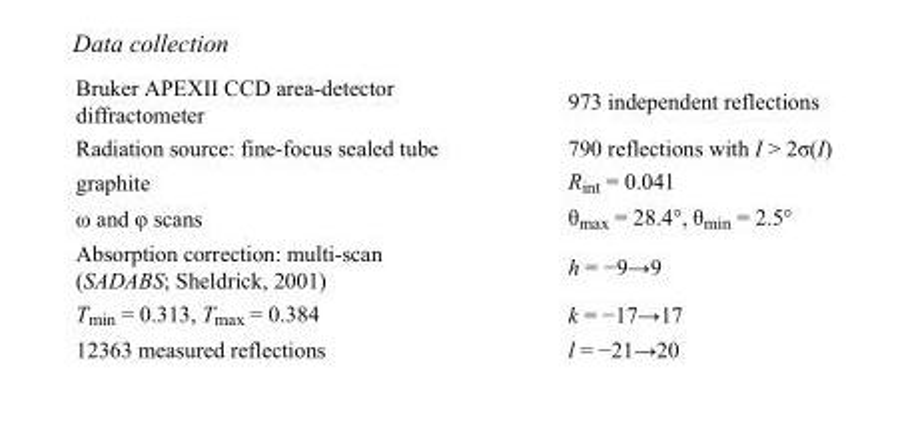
<table><tbody><tr><td>Bruker APEXII CCD area-detector diffractometer</td><td>973 independent reflections</td></tr><tr><td>Radiation source: fine-focus sealed tube</td><td>790 reflections with I &gt; 2σ(I)</td></tr><tr><td>graphite</td><td>R<sub>int</sub> = 0.041</td></tr><tr><td>ω and φ scans</td><td>θ<sub>max</sub> = 28.4°, θ<sub>min</sub> = 2.5°</td></tr><tr><td>Absorption correction: multi-scan (SADABS; Sheldrick, 2001)</td><td>h = −9→9</td></tr><tr><td>T<sub>min</sub> = 0.313, T<sub>max</sub> = 0.384</td><td>k = −17→17</td></tr><tr><td>12363 measured reflections</td><td>l = −21→20</td></tr></tbody></table>